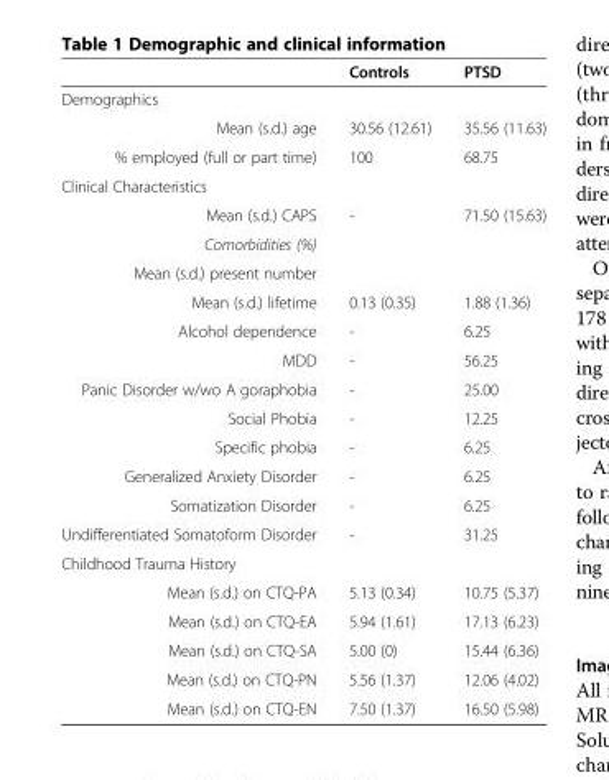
<table><thead><tr><td></td><td>Controls</td><td>PTSD</td></tr></thead><tbody><tr><td colspan="3">Demographics</td></tr><tr><td>Mean (s.d.) age</td><td>30.56 (12.61)</td><td>35.56 (11.63)</td></tr><tr><td>% employed (full or part time)</td><td>100</td><td>68.75</td></tr><tr><td colspan="3">Clinical Characteristics</td></tr><tr><td>Mean (s.d.) CAPS</td><td>-</td><td>71.50 (15.63)</td></tr><tr><td colspan="3">Comorbidities (%)</td></tr><tr><td colspan="3">Mean (s.d.) present number</td></tr><tr><td>Mean (s.d.) lifetime</td><td>0.13 (0.35)</td><td>1.88 (1.36)</td></tr><tr><td>Alcohol dependence</td><td>-</td><td>6.25</td></tr><tr><td>MDD</td><td>-</td><td>56.25</td></tr><tr><td>Panic Disorder w/wo A goraphobia</td><td>-</td><td>25.00</td></tr><tr><td>Social Phobia</td><td>-</td><td>12.25</td></tr><tr><td>Specific phobia</td><td>-</td><td>6.25</td></tr><tr><td>Generalized Anxiety Disorder</td><td>-</td><td>6.25</td></tr><tr><td>Somatization Disorder</td><td>-</td><td>6.25</td></tr><tr><td>Undifferentiated Somatoform Disorder</td><td>-</td><td>31.25</td></tr><tr><td colspan="3">Childhood Trauma History</td></tr><tr><td>Mean (s.d.) on CTQ-PA</td><td>5.13 (0.34)</td><td>10.75 (5.37)</td></tr><tr><td>Mean (s.d.) on CTQ-EA</td><td>5.94 (1.61)</td><td>17.13 (6.23)</td></tr><tr><td>Mean (s.d.) on CTQ-SA</td><td>5.00 (0)</td><td>15.44 (6.36)</td></tr><tr><td>Mean (s.d.) on CTQ-PN</td><td>5.56 (1.37)</td><td>12.06 (4.02)</td></tr><tr><td>Mean (s.d.) on CTQ-EN</td><td>7.50 (1.37)</td><td>16.50 (5.98)</td></tr></tbody></table>